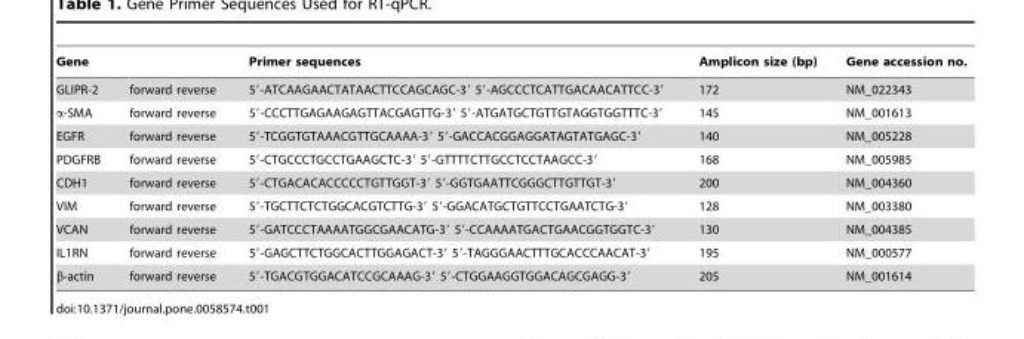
<table><thead><tr><td>Gene</td><td></td><td>Primer sequences</td><td>Amplicon size (bp)</td><td>Gene accession no.</td></tr></thead><tbody><tr><td>GLIPR-2</td><td>forward reverse</td><td>5′-ATCAAGAACTATAACTTCCAGCAGC-3′ 5′-AGCCCTCATTGACAACATTCC-3′</td><td>172</td><td>NM_022343</td></tr><tr><td>α-SMA</td><td>forward reverse</td><td>5′-CCCTTGAGAAGAGTTACGAGTTG-3′ 5′-ATGATGCTGTTGTAGGTGGTTTC-3′</td><td>145</td><td>NM_001613</td></tr><tr><td>EGFR</td><td>forward reverse</td><td>5′-TCGGTGTAAACGTTGCAAAA-3′ 5′-GACCACGGAGGATAGTATGAGC-3′</td><td>140</td><td>NM_005228</td></tr><tr><td>PDGFRB</td><td>forward reverse</td><td>5′-CTGCCCTGCCTGAAGCTC-3′ 5′-GTTTTCTTGCCTCCTAAGCC-3′</td><td>168</td><td>NM_005985</td></tr><tr><td>CDH1</td><td>forward reverse</td><td>5′-CTGACACACCCCCTGTTGGT-3′ 5′-GGTGAATTCGGGCTTGTTGT-3′</td><td>200</td><td>NM_004360</td></tr><tr><td>VIM</td><td>forward reverse</td><td>5′-TGCTTCTCTGGCACGTCTTG-3′ 5′-GGACATGCTGTTCCTGAATCTG-3′</td><td>128</td><td>NM_003380</td></tr><tr><td>VCAN</td><td>forward reverse</td><td>5′-GATCCCTAAAATGGCGAACATG-3′ 5′-CCAAAATGACTGAACGGTGGTC-3′</td><td>130</td><td>NM_004385</td></tr><tr><td>IL1RN</td><td>forward reverse</td><td>5′-GAGCTTCTGGCACTTGGAGACT-3′ 5′-TAGGGAACTTTGCACCCAACAT-3′</td><td>195</td><td>NM_000577</td></tr><tr><td>β-actin</td><td>forward reverse</td><td>5′-TGACGTGGACATCCGCAAAG-3′ 5′-CTGGAAGGTGGACAGCGAGG-3′</td><td>205</td><td>NM_001614</td></tr></tbody></table>